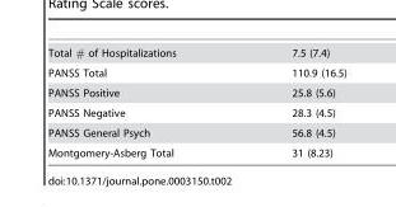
<table><tbody><tr><td>Total # of Hospitalizations</td><td>7.5 (7.4)</td></tr><tr><td>PANSS Total</td><td>110.9 (16.5)</td></tr><tr><td>PANSS Positive</td><td>25.8 (5.6)</td></tr><tr><td>PANSS Negative</td><td>28.3 (4.5)</td></tr><tr><td>PANSS General Psych</td><td>56.8 (4.5)</td></tr><tr><td>Montgomery-Asberg Total</td><td>31 (8.23)</td></tr></tbody></table>